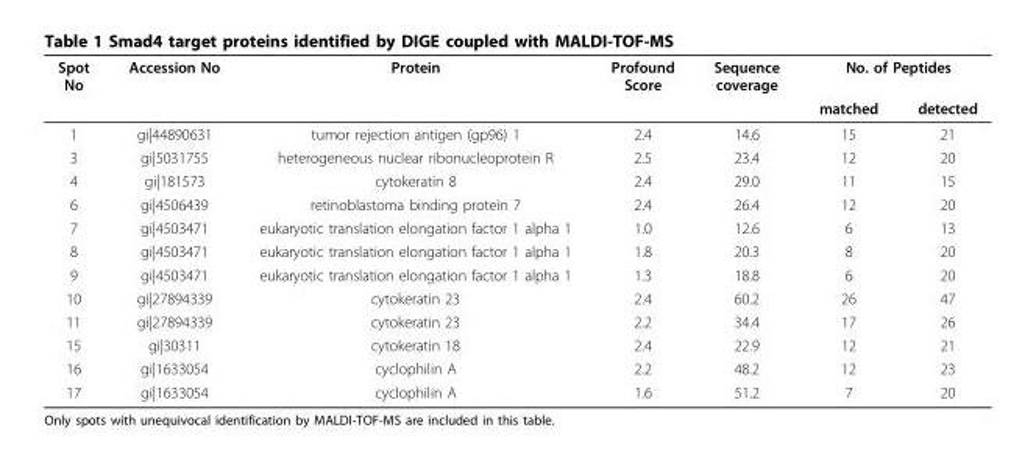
<table><thead><tr><td rowspan="2">Spot No</td><td rowspan="2">Accession No</td><td rowspan="2">Protein</td><td rowspan="2">Profound Score</td><td rowspan="2">Sequence coverage</td><td colspan="2">No. of Peptides</td></tr><tr><td>matched</td><td>detected</td></tr></thead><tbody><tr><td>1</td><td>gi|44890631</td><td>tumor rejection antigen (gp96) 1</td><td>2.4</td><td>14.6</td><td>15</td><td>21</td></tr><tr><td>3</td><td>gi|5031755</td><td>heterogeneous nuclear ribonucleoprotein R</td><td>2.5</td><td>23.4</td><td>12</td><td>20</td></tr><tr><td>4</td><td>gi|181573</td><td>cytokeratin 8</td><td>2.4</td><td>29.0</td><td>11</td><td>15</td></tr><tr><td>6</td><td>gi|4506439</td><td>retinoblastoma binding protein 7</td><td>2.4</td><td>26.4</td><td>12</td><td>20</td></tr><tr><td>7</td><td>gi|4503471</td><td>eukaryotic translation elongation factor 1 alpha 1</td><td>1.0</td><td>12.6</td><td>6</td><td>13</td></tr><tr><td>8</td><td>gi|4503471</td><td>eukaryotic translation elongation factor 1 alpha 1</td><td>1.8</td><td>20.3</td><td>8</td><td>20</td></tr><tr><td>9</td><td>gi|4503471</td><td>eukaryotic translation elongation factor 1 alpha 1</td><td>1.3</td><td>18.8</td><td>6</td><td>20</td></tr><tr><td>10</td><td>gi|27894339</td><td>cytokeratin 23</td><td>2.4</td><td>60.2</td><td>26</td><td>47</td></tr><tr><td>11</td><td>gi|27894339</td><td>cytokeratin 23</td><td>2.2</td><td>34.4</td><td>17</td><td>26</td></tr><tr><td>15</td><td>gi|30311</td><td>cytokeratin 18</td><td>2.4</td><td>22.9</td><td>12</td><td>21</td></tr><tr><td>16</td><td>gi|1633054</td><td>cyclophilin A</td><td>2.2</td><td>48.2</td><td>12</td><td>23</td></tr><tr><td>17</td><td>gi|1633054</td><td>cyclophilin A</td><td>1.6</td><td>51.2</td><td>7</td><td>20</td></tr></tbody></table>